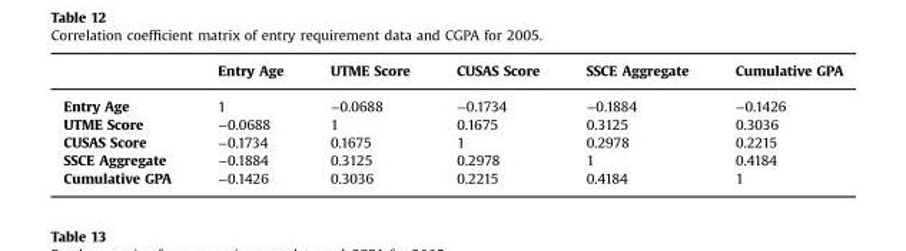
<table><thead><tr><td></td><td>Entry Age</td><td>UTME Score</td><td>CUSAS Score</td><td>SSCE Aggregate</td><td>Cumulative GPA</td></tr></thead><tbody><tr><td>Entry Age</td><td>1</td><td>−0.0688</td><td>−0.1734</td><td>−0.1884</td><td>−0.1426</td></tr><tr><td>UTME Score</td><td>−0.0688</td><td>1</td><td>0.1675</td><td>0.3125</td><td>0.3036</td></tr><tr><td>CUSAS Score</td><td>−0.1734</td><td>0.1675</td><td>1</td><td>0.2978</td><td>0.2215</td></tr><tr><td>SSCE Aggregate</td><td>−0.1884</td><td>0.3125</td><td>0.2978</td><td>1</td><td>0.4184</td></tr><tr><td>Cumulative GPA</td><td>−0.1426</td><td>0.3036</td><td>0.2215</td><td>0.4184</td><td>1</td></tr></tbody></table>